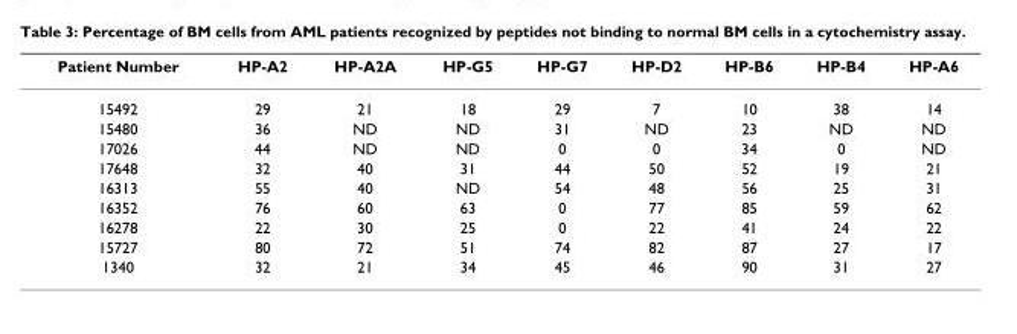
<table><thead><tr><td>Patient Number</td><td>HP-A2</td><td>HP-A2A</td><td>HP-G5</td><td>HP-G7</td><td>HP-D2</td><td>HP-B6</td><td>HP-B4</td><td>HP-A6</td></tr></thead><tbody><tr><td>15492</td><td>29</td><td>21</td><td>18</td><td>29</td><td>7</td><td>10</td><td>38</td><td>14</td></tr><tr><td>15480</td><td>36</td><td>ND</td><td>ND</td><td>31</td><td>ND</td><td>23</td><td>ND</td><td>ND</td></tr><tr><td>17026</td><td>44</td><td>ND</td><td>ND</td><td>0</td><td>0</td><td>34</td><td>0</td><td>ND</td></tr><tr><td>17648</td><td>32</td><td>40</td><td>31</td><td>44</td><td>50</td><td>52</td><td>19</td><td>21</td></tr><tr><td>16313</td><td>55</td><td>40</td><td>ND</td><td>54</td><td>48</td><td>56</td><td>25</td><td>31</td></tr><tr><td>16352</td><td>76</td><td>60</td><td>63</td><td>0</td><td>77</td><td>85</td><td>59</td><td>62</td></tr><tr><td>16278</td><td>22</td><td>30</td><td>25</td><td>0</td><td>22</td><td>41</td><td>24</td><td>22</td></tr><tr><td>15727</td><td>80</td><td>72</td><td>51</td><td>74</td><td>82</td><td>87</td><td>27</td><td>17</td></tr><tr><td>1340</td><td>32</td><td>21</td><td>34</td><td>45</td><td>46</td><td>90</td><td>31</td><td>27</td></tr></tbody></table>